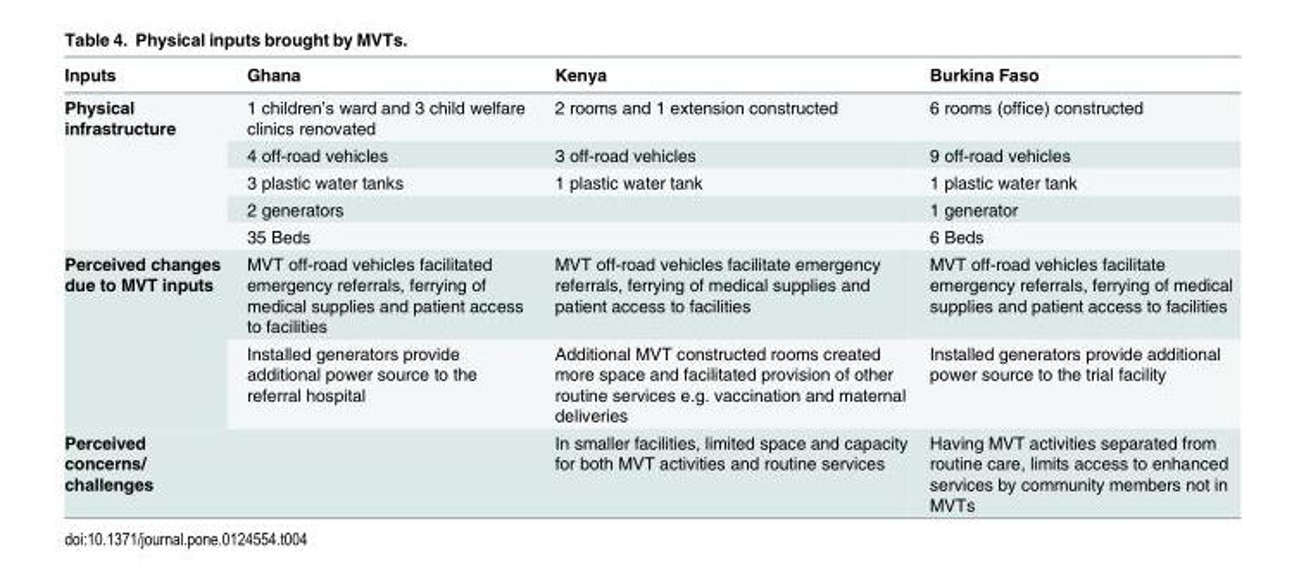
<table><thead><tr><td>Inputs</td><td>Ghana</td><td>Kenya</td><td>Burkina Faso</td></tr></thead><tbody><tr><td rowspan="5">Physical infrastructure</td><td>1 children’s ward and 3 child welfare clinics renovated</td><td>2 rooms and 1 extension constructed</td><td>6 rooms (office) constructed</td></tr><tr><td>4 off-road vehicles</td><td>3 off-road vehicles</td><td>9 off-road vehicles</td></tr><tr><td>3 plastic water tanks</td><td>1 plastic water tank</td><td>1 plastic water tank</td></tr><tr><td>2 generators</td><td></td><td>1 generator</td></tr><tr><td>35 Beds</td><td></td><td>6 Beds</td></tr><tr><td rowspan="2">Perceived changes due to MVT inputs</td><td>MVT off-road vehicles facilitated emergency referrals, ferrying of medical supplies and patient access to facilities</td><td>MVT off-road vehicles facilitate emergency referrals, ferrying of medical supplies and patient access to facilities</td><td>MVT off-road vehicles facilitate emergency referrals, ferrying of medical supplies and patient access to facilities</td></tr><tr><td>Installed generators provide additional power source to the referral hospital</td><td>Additional MVT constructed rooms created more space and facilitated provision of other routine services e.g. vaccination and maternal deliveries</td><td>Installed generators provide additional power source to the trial facility</td></tr><tr><td>Perceived concerns/ challenges</td><td></td><td>In smaller facilities, limited space and capacity for both MVT activities and routine services</td><td>Having MVT activities separated from routine care, limits access to enhanced services by community members not in MVTs</td></tr></tbody></table>